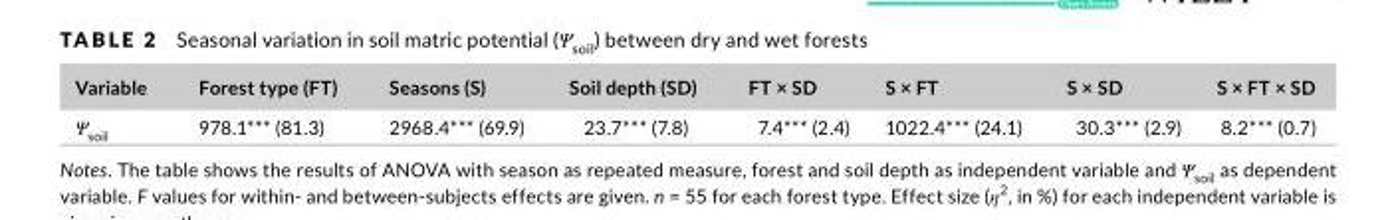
<table><thead><tr><td>Variable</td><td>Forest type (FT)</td><td>Seasons (S)</td><td>Soil depth (SD)</td><td>FT × SD</td><td>S × FT</td><td>S × SD</td><td>S × FT × SD</td></tr></thead><tbody><tr><td>Ψ<sub>soil</sub></td><td>978.1*** (81.3)</td><td>2968.4*** (69.9)</td><td>23.7*** (7.8)</td><td>7.4*** (2.4)</td><td>1022.4*** (24.1)</td><td>30.3*** (2.9)</td><td>8.2*** (0.7)</td></tr></tbody></table>